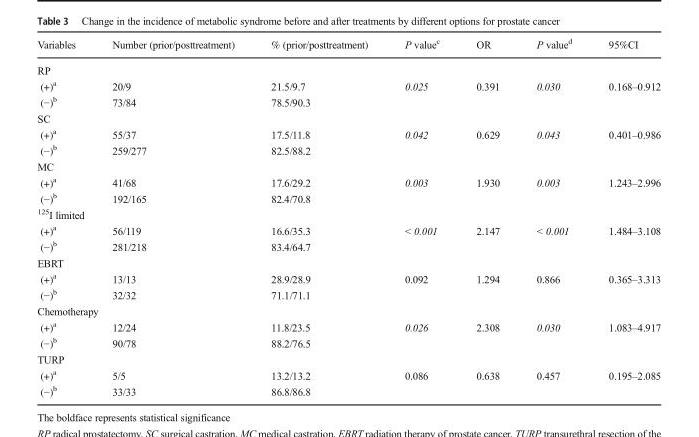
<table><thead><tr><td>Variables</td><td>Number (prior/posttreatment)</td><td>% (prior/posttreatment)</td><td>P value<sup>c</sup></td><td>OR</td><td>P value<sup>d</sup></td><td>95%CI</td></tr></thead><tbody><tr><td colspan="7">RP</td></tr><tr><td>(+)<sup>a</sup></td><td>20/9</td><td>21.5/9.7</td><td>0.025</td><td>0.391</td><td>0.030</td><td>0.168–0.912</td></tr><tr><td>(−)<sup>b</sup></td><td>73/84</td><td>78.5/90.3</td><td></td><td></td><td></td><td></td></tr><tr><td colspan="7">SC</td></tr><tr><td>(+)<sup>a</sup></td><td>55/37</td><td>17.5/11.8</td><td>0.042</td><td>0.629</td><td>0.043</td><td>0.401–0.986</td></tr><tr><td>(−)<sup>b</sup></td><td>259/277</td><td>82.5/88.2</td><td></td><td></td><td></td><td></td></tr><tr><td colspan="7">MC</td></tr><tr><td>(+)<sup>a</sup></td><td>41/68</td><td>17.6/29.2</td><td>0.003</td><td>1.930</td><td>0.003</td><td>1.243–2.996</td></tr><tr><td>(−)<sup>b</sup></td><td>192/165</td><td>82.4/70.8</td><td></td><td></td><td></td><td></td></tr><tr><td colspan="7"><sup>125</sup>I limited</td></tr><tr><td>(+)<sup>a</sup></td><td>56/119</td><td>16.6/35.3</td><td>&lt; 0.001</td><td>2.147</td><td>&lt; 0.001</td><td>1.484–3.108</td></tr><tr><td>(−)<sup>b</sup></td><td>281/218</td><td>83.4/64.7</td><td></td><td></td><td></td><td></td></tr><tr><td colspan="7">EBRT</td></tr><tr><td>(+)<sup>a</sup></td><td>13/13</td><td>28.9/28.9</td><td>0.092</td><td>1.294</td><td>0.866</td><td>0.365–3.313</td></tr><tr><td>(−)<sup>b</sup></td><td>32/32</td><td>71.1/71.1</td><td></td><td></td><td></td><td></td></tr><tr><td colspan="7">Chemotherapy</td></tr><tr><td>(+)<sup>a</sup></td><td>12/24</td><td>11.8/23.5</td><td>0.026</td><td>2.308</td><td>0.030</td><td>1.083–4.917</td></tr><tr><td>(−)<sup>b</sup></td><td>90/78</td><td>88.2/76.5</td><td></td><td></td><td></td><td></td></tr><tr><td colspan="7">TURP</td></tr><tr><td>(+)<sup>a</sup></td><td>5/5</td><td>13.2/13.2</td><td>0.086</td><td>0.638</td><td>0.457</td><td>0.195–2.085</td></tr><tr><td>(−)<sup>b</sup></td><td>33/33</td><td>86.8/86.8</td><td></td><td></td><td></td><td></td></tr></tbody></table>